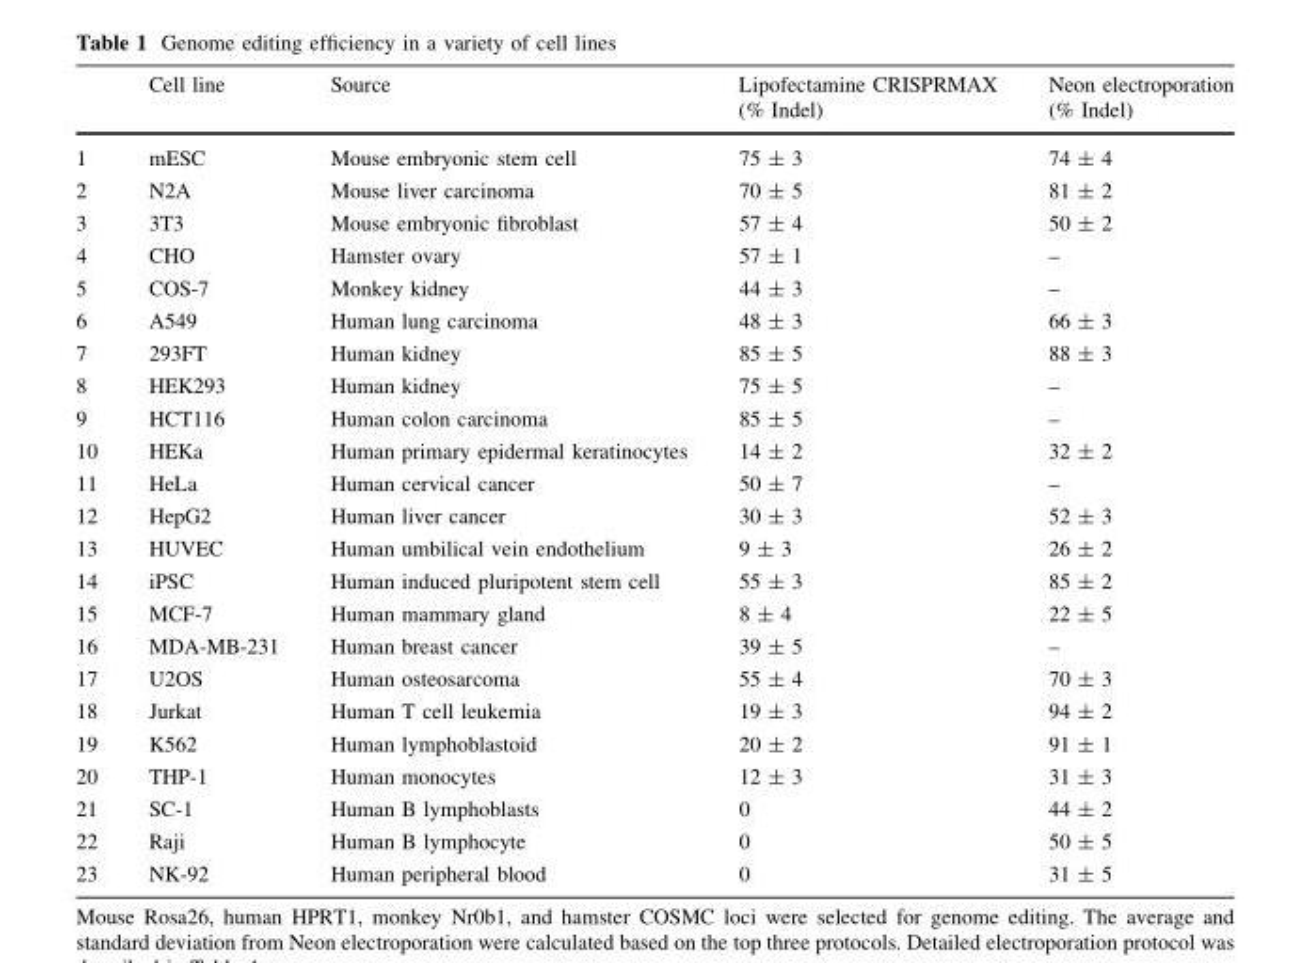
<table><thead><tr><td></td><td>Cell line</td><td>Source</td><td>Lipofectamine CRISPRMAX (% Indel)</td><td>Neon electroporation (% Indel)</td></tr></thead><tbody><tr><td>1</td><td>mESC</td><td>Mouse embryonic stem cell</td><td>75 ± 3</td><td>74 ± 4</td></tr><tr><td>2</td><td>N2A</td><td>Mouse liver carcinoma</td><td>70 ± 5</td><td>81 ± 2</td></tr><tr><td>3</td><td>3T3</td><td>Mouse embryonic fibroblast</td><td>57 ± 4</td><td>50 ± 2</td></tr><tr><td>4</td><td>CHO</td><td>Hamster ovary</td><td>57 ± 1</td><td>–</td></tr><tr><td>5</td><td>COS-7</td><td>Monkey kidney</td><td>44 ± 3</td><td>–</td></tr><tr><td>6</td><td>A549</td><td>Human lung carcinoma</td><td>48 ± 3</td><td>66 ± 3</td></tr><tr><td>7</td><td>293FT</td><td>Human kidney</td><td>85 ± 5</td><td>88 ± 3</td></tr><tr><td>8</td><td>HEK293</td><td>Human kidney</td><td>75 ± 5</td><td>–</td></tr><tr><td>9</td><td>HCT116</td><td>Human colon carcinoma</td><td>85 ± 5</td><td>–</td></tr><tr><td>10</td><td>HEKa</td><td>Human primary epidermal keratinocytes</td><td>14 ± 2</td><td>32 ± 2</td></tr><tr><td>11</td><td>HeLa</td><td>Human cervical cancer</td><td>50 ± 7</td><td>–</td></tr><tr><td>12</td><td>HepG2</td><td>Human liver cancer</td><td>30 ± 3</td><td>52 ± 3</td></tr><tr><td>13</td><td>HUVEC</td><td>Human umbilical vein endothelium</td><td>9 ± 3</td><td>26 ± 2</td></tr><tr><td>14</td><td>iPSC</td><td>Human induced pluripotent stem cell</td><td>55 ± 3</td><td>85 ± 2</td></tr><tr><td>15</td><td>MCF-7</td><td>Human mammary gland</td><td>8 ± 4</td><td>22 ± 5</td></tr><tr><td>16</td><td>MDA-MB-231</td><td>Human breast cancer</td><td>39 ± 5</td><td>–</td></tr><tr><td>17</td><td>U2OS</td><td>Human osteosarcoma</td><td>55 ± 4</td><td>70 ± 3</td></tr><tr><td>18</td><td>Jurkat</td><td>Human T cell leukemia</td><td>19 ± 3</td><td>94 ± 2</td></tr><tr><td>19</td><td>K562</td><td>Human lymphoblastoid</td><td>20 ± 2</td><td>91 ± 1</td></tr><tr><td>20</td><td>THP-1</td><td>Human monocytes</td><td>12 ± 3</td><td>31 ± 3</td></tr><tr><td>21</td><td>SC-1</td><td>Human B lymphoblasts</td><td>0</td><td>44 ± 2</td></tr><tr><td>22</td><td>Raji</td><td>Human B lymphocyte</td><td>0</td><td>50 ± 5</td></tr><tr><td>23</td><td>NK-92</td><td>Human peripheral blood</td><td>0</td><td>31 ± 5</td></tr></tbody></table>